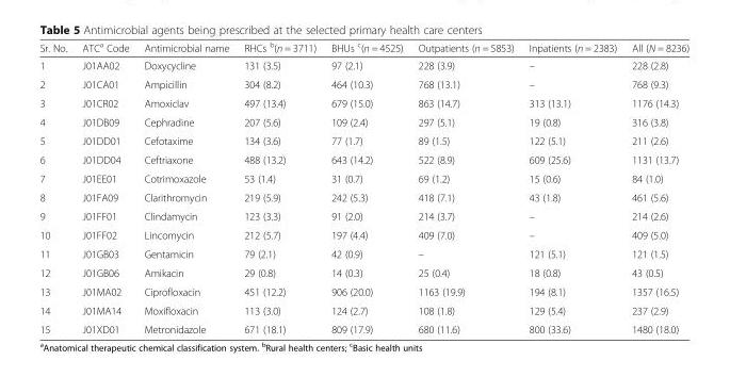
<table><thead><tr><td>Sr. No.</td><td>ATC<sup>a</sup> Code</td><td>Antimicrobial name</td><td>RHCs <sup>b</sup>(n = 3711)</td><td>BHUs <sup>c</sup>(n = 4525)</td><td>Outpatients (n = 5853)</td><td>Inpatients (n = 2383)</td><td>All (N = 8236)</td></tr></thead><tbody><tr><td>1</td><td>J01AA02</td><td>Doxycycline</td><td>131 (3.5)</td><td>97 (2.1)</td><td>228 (3.9)</td><td>–</td><td>228 (2.8)</td></tr><tr><td>2</td><td>J01CA01</td><td>Ampicillin</td><td>304 (8.2)</td><td>464 (10.3)</td><td>768 (13.1)</td><td>–</td><td>768 (9.3)</td></tr><tr><td>3</td><td>J01CR02</td><td>Amoxiclav</td><td>497 (13.4)</td><td>679 (15.0)</td><td>863 (14.7)</td><td>313 (13.1)</td><td>1176 (14.3)</td></tr><tr><td>4</td><td>J01DB09</td><td>Cephradine</td><td>207 (5.6)</td><td>109 (2.4)</td><td>297 (5.1)</td><td>19 (0.8)</td><td>316 (3.8)</td></tr><tr><td>5</td><td>J01DD01</td><td>Cefotaxime</td><td>134 (3.6)</td><td>77 (1.7)</td><td>89 (1.5)</td><td>122 (5.1)</td><td>211 (2.6)</td></tr><tr><td>6</td><td>J01DD04</td><td>Ceftriaxone</td><td>488 (13.2)</td><td>643 (14.2)</td><td>522 (8.9)</td><td>609 (25.6)</td><td>1131 (13.7)</td></tr><tr><td>7</td><td>J01EE01</td><td>Cotrimoxazole</td><td>53 (1.4)</td><td>31 (0.7)</td><td>69 (1.2)</td><td>15 (0.6)</td><td>84 (1.0)</td></tr><tr><td>8</td><td>J01FA09</td><td>Clarithromycin</td><td>219 (5.9)</td><td>242 (5.3)</td><td>418 (7.1)</td><td>43 (1.8)</td><td>461 (5.6)</td></tr><tr><td>9</td><td>J01FF01</td><td>Clindamycin</td><td>123 (3.3)</td><td>91 (2.0)</td><td>214 (3.7)</td><td>–</td><td>214 (2.6)</td></tr><tr><td>10</td><td>J01FF02</td><td>Lincomycin</td><td>212 (5.7)</td><td>197 (4.4)</td><td>409 (7.0)</td><td>–</td><td>409 (5.0)</td></tr><tr><td>11</td><td>J01GB03</td><td>Gentamicin</td><td>79 (2.1)</td><td>42 (0.9)</td><td>–</td><td>121 (5.1)</td><td>121 (1.5)</td></tr><tr><td>12</td><td>J01GB06</td><td>Amikacin</td><td>29 (0.8)</td><td>14 (0.3)</td><td>25 (0.4)</td><td>18 (0.8)</td><td>43 (0.5)</td></tr><tr><td>13</td><td>J01MA02</td><td>Ciprofloxacin</td><td>451 (12.2)</td><td>906 (20.0)</td><td>1163 (19.9)</td><td>194 (8.1)</td><td>1357 (16.5)</td></tr><tr><td>14</td><td>J01MA14</td><td>Moxifloxacin</td><td>113 (3.0)</td><td>124 (2.7)</td><td>108 (1.8)</td><td>129 (5.4)</td><td>237 (2.9)</td></tr><tr><td>15</td><td>J01XD01</td><td>Metronidazole</td><td>671 (18.1)</td><td>809 (17.9)</td><td>680 (11.6)</td><td>800 (33.6)</td><td>1480 (18.0)</td></tr></tbody></table>